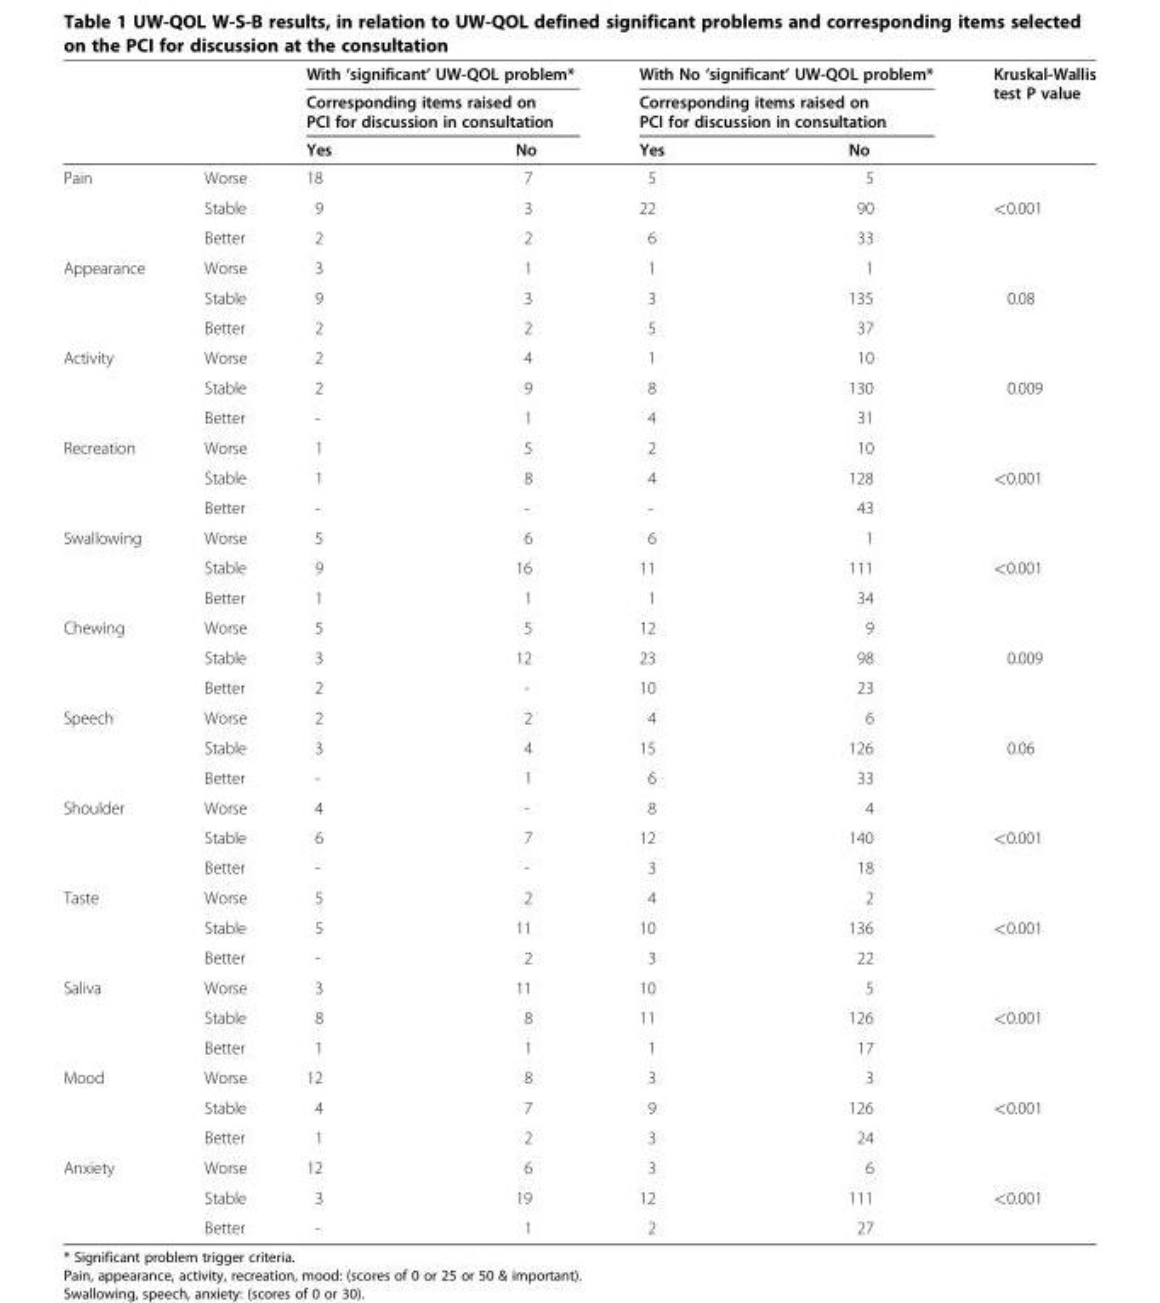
<table><thead><tr><td rowspan="3"></td><td rowspan="3"></td><td rowspan="2" colspan="2">With ‘significant’ UW-QOL problem* Corresponding items raised on PCI for discussion in consultation</td><td rowspan="2" colspan="2">With No ‘significant’ UW-QOL problem* Corresponding items raised on PCI for discussion in consultation</td><td rowspan="3">Kruskal-Wallis test P value</td></tr><tr></tr><tr><td>Yes</td><td>No</td><td>Yes</td><td>No</td></tr></thead><tbody><tr><td rowspan="3">Pain</td><td>Worse</td><td>18</td><td>7</td><td>5</td><td>5</td><td></td></tr><tr><td>Stable</td><td>9</td><td>3</td><td>22</td><td>90</td><td>&lt;0.001</td></tr><tr><td>Better</td><td>2</td><td>2</td><td>6</td><td>33</td><td></td></tr><tr><td rowspan="3">Appearance</td><td>Worse</td><td>3</td><td>1</td><td>1</td><td>1</td><td></td></tr><tr><td>Stable</td><td>9</td><td>3</td><td>3</td><td>135</td><td>0.08</td></tr><tr><td>Better</td><td>2</td><td>2</td><td>5</td><td>37</td><td></td></tr><tr><td rowspan="3">Activity</td><td>Worse</td><td>2</td><td>4</td><td>1</td><td>10</td><td></td></tr><tr><td>Stable</td><td>2</td><td>9</td><td>8</td><td>130</td><td>0.009</td></tr><tr><td>Better</td><td>-</td><td>1</td><td>4</td><td>31</td><td></td></tr><tr><td rowspan="3">Recreation</td><td>Worse</td><td>1</td><td>5</td><td>2</td><td>10</td><td></td></tr><tr><td>Stable</td><td>1</td><td>8</td><td>4</td><td>128</td><td>&lt;0.001</td></tr><tr><td>Better</td><td>-</td><td>-</td><td>-</td><td>43</td><td></td></tr><tr><td rowspan="3">Swallowing</td><td>Worse</td><td>5</td><td>6</td><td>6</td><td>1</td><td></td></tr><tr><td>Stable</td><td>9</td><td>16</td><td>11</td><td>111</td><td>&lt;0.001</td></tr><tr><td>Better</td><td>1</td><td>1</td><td>1</td><td>34</td><td></td></tr><tr><td rowspan="3">Chewing</td><td>Worse</td><td>5</td><td>5</td><td>12</td><td>9</td><td></td></tr><tr><td>Stable</td><td>3</td><td>12</td><td>23</td><td>98</td><td>0.009</td></tr><tr><td>Better</td><td>2</td><td>-</td><td>10</td><td>23</td><td></td></tr><tr><td rowspan="3">Speech</td><td>Worse</td><td>2</td><td>2</td><td>4</td><td>6</td><td></td></tr><tr><td>Stable</td><td>3</td><td>4</td><td>15</td><td>126</td><td>0.06</td></tr><tr><td>Better</td><td>-</td><td>1</td><td>6</td><td>33</td><td></td></tr><tr><td rowspan="3">Shoulder</td><td>Worse</td><td>4</td><td>-</td><td>8</td><td>4</td><td></td></tr><tr><td>Stable</td><td>6</td><td>7</td><td>12</td><td>140</td><td>&lt;0.001</td></tr><tr><td>Better</td><td>-</td><td>-</td><td>3</td><td>18</td><td></td></tr><tr><td rowspan="3">Taste</td><td>Worse</td><td>5</td><td>2</td><td>4</td><td>2</td><td></td></tr><tr><td>Stable</td><td>5</td><td>11</td><td>10</td><td>136</td><td>&lt;0.001</td></tr><tr><td>Better</td><td>-</td><td>2</td><td>3</td><td>22</td><td></td></tr><tr><td rowspan="3">Saliva</td><td>Worse</td><td>3</td><td>11</td><td>10</td><td>5</td><td></td></tr><tr><td>Stable</td><td>8</td><td>8</td><td>11</td><td>126</td><td>&lt;0.001</td></tr><tr><td>Better</td><td>1</td><td>1</td><td>1</td><td>17</td><td></td></tr><tr><td rowspan="3">Mood</td><td>Worse</td><td>12</td><td>8</td><td>3</td><td>3</td><td></td></tr><tr><td>Stable</td><td>4</td><td>7</td><td>9</td><td>126</td><td>&lt;0.001</td></tr><tr><td>Better</td><td>1</td><td>2</td><td>3</td><td>24</td><td></td></tr><tr><td rowspan="3">Anxiety</td><td>Worse</td><td>12</td><td>6</td><td>3</td><td>6</td><td></td></tr><tr><td>Stable</td><td>3</td><td>19</td><td>12</td><td>111</td><td>&lt;0.001</td></tr><tr><td>Better</td><td>-</td><td>1</td><td>2</td><td>27</td><td></td></tr></tbody></table>